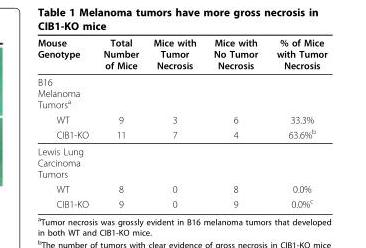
<table><thead><tr><td>Mouse Genotype</td><td>Total Number of Mice</td><td>Mice with Tumor Necrosis</td><td>Mice with No Tumor Necrosis</td><td>% of Mice with Tumor Necrosis</td></tr></thead><tbody><tr><td colspan="5">B16 Melanoma Tumors<sup>a</sup></td></tr><tr><td>WT</td><td>9</td><td>3</td><td>6</td><td>33.3%</td></tr><tr><td>CIB1-KO</td><td>11</td><td>7</td><td>4</td><td>63.6%<sup>b</sup></td></tr><tr><td colspan="5">Lewis Lung Carcinoma Tumors</td></tr><tr><td>WT</td><td>8</td><td>0</td><td>8</td><td>0.0%</td></tr><tr><td>CIB1-KO</td><td>9</td><td>0</td><td>9</td><td>0.0%<sup>c</sup></td></tr></tbody></table>